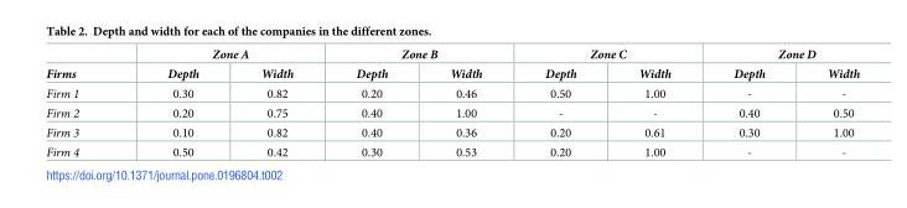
<table><thead><tr><td rowspan="2">Firms</td><td colspan="2">Zone A</td><td colspan="2">Zone B</td><td colspan="2">Zone C</td><td colspan="2">Zone D</td></tr><tr><td>Depth</td><td>Width</td><td>Depth</td><td>Width</td><td>Depth</td><td>Width</td><td>Depth</td><td>Width</td></tr></thead><tbody><tr><td>Firm 1</td><td>0.30</td><td>0.82</td><td>0.20</td><td>0.46</td><td>0.50</td><td>1.00</td><td>-</td><td>-</td></tr><tr><td>Firm 2</td><td>0.20</td><td>0.75</td><td>0.40</td><td>1.00</td><td>-</td><td>-</td><td>0.40</td><td>0.50</td></tr><tr><td>Firm 3</td><td>0.10</td><td>0.82</td><td>0.40</td><td>0.36</td><td>0.20</td><td>0.61</td><td>0.30</td><td>1.00</td></tr><tr><td>Firm 4</td><td>0.50</td><td>0.42</td><td>0.30</td><td>0.53</td><td>0.20</td><td>1.00</td><td>-</td><td>-</td></tr></tbody></table>